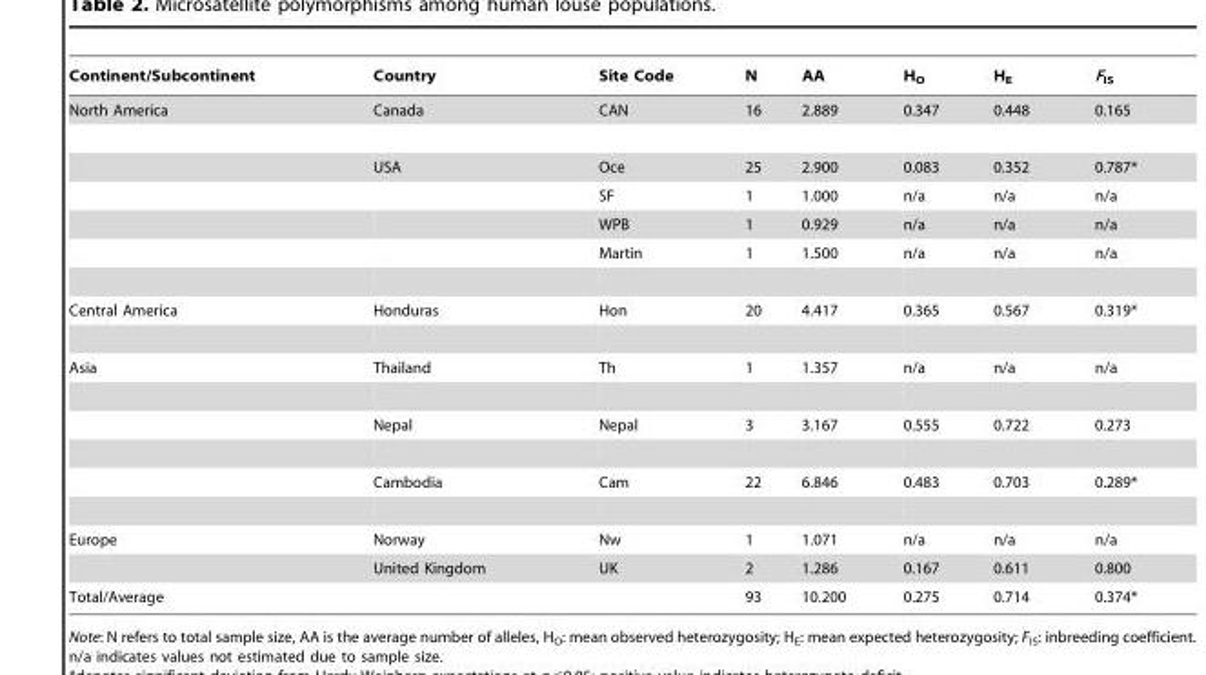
<table><thead><tr><td>Continent/Subcontinent</td><td>Country</td><td>Site Code</td><td>N</td><td>AA</td><td>H<sub>O</sub></td><td>H<sub>E</sub></td><td>F<sub>IS</sub></td></tr></thead><tbody><tr><td rowspan="5">North America</td><td>Canada</td><td>CAN</td><td>16</td><td>2.889</td><td>0.347</td><td>0.448</td><td>0.165</td></tr><tr><td>USA</td><td>Oce</td><td>25</td><td>2.900</td><td>0.083</td><td>0.352</td><td>0.787*</td></tr><tr><td></td><td>SF</td><td>1</td><td>1.000</td><td>n/a</td><td>n/a</td><td>n/a</td></tr><tr><td></td><td>WPB</td><td>1</td><td>0.929</td><td>n/a</td><td>n/a</td><td>n/a</td></tr><tr><td></td><td>Martin</td><td>1</td><td>1.500</td><td>n/a</td><td>n/a</td><td>n/a</td></tr><tr><td>Central America</td><td>Honduras</td><td>Hon</td><td>20</td><td>4.417</td><td>0.365</td><td>0.567</td><td>0.319*</td></tr><tr><td rowspan="3">Asia</td><td>Thailand</td><td>Th</td><td>1</td><td>1.357</td><td>n/a</td><td>n/a</td><td>n/a</td></tr><tr><td>Nepal</td><td>Nepal</td><td>3</td><td>3.167</td><td>0.555</td><td>0.722</td><td>0.273</td></tr><tr><td>Cambodia</td><td>Cam</td><td>22</td><td>6.846</td><td>0.483</td><td>0.703</td><td>0.289*</td></tr><tr><td rowspan="2">Europe</td><td>Norway</td><td>Nw</td><td>1</td><td>1.071</td><td>n/a</td><td>n/a</td><td>n/a</td></tr><tr><td>United Kingdom</td><td>UK</td><td>2</td><td>1.286</td><td>0.167</td><td>0.611</td><td>0.800</td></tr><tr><td>Total/Average</td><td></td><td></td><td>93</td><td>10.200</td><td>0.275</td><td>0.714</td><td>0.374*</td></tr></tbody></table>